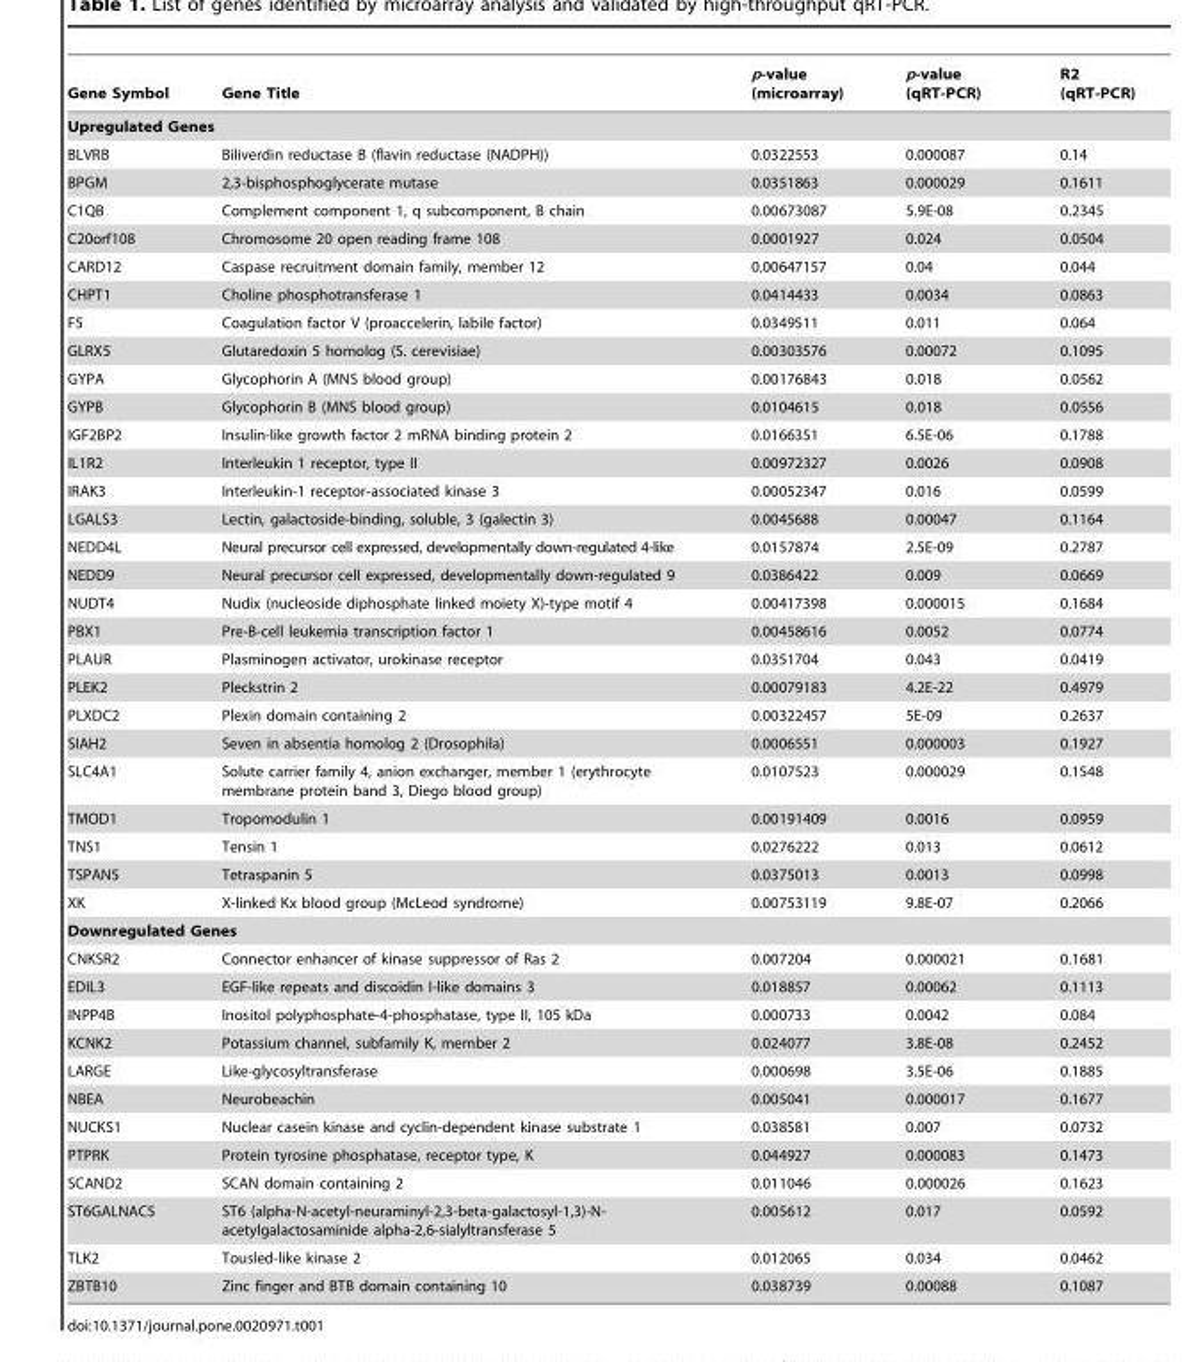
<table><thead><tr><td>Gene Symbol</td><td>Gene Title</td><td>p-value (microarray)</td><td>p-value (qRT-PCR)</td><td>R2 (qRT-PCR)</td></tr></thead><tbody><tr><td colspan="5">Upregulated Genes</td></tr><tr><td>BLVRB</td><td>Biliverdin reductase B (flavin reductase (NADPH))</td><td>0.0322553</td><td>0.000087</td><td>0.14</td></tr><tr><td>BPGM</td><td>2,3-bisphosphoglycerate mutase</td><td>0.0351863</td><td>0.000029</td><td>0.1611</td></tr><tr><td>C1QB</td><td>Complement component 1, q subcomponent, B chain</td><td>0.00673087</td><td>5.9E-08</td><td>0.2345</td></tr><tr><td>C20orf108</td><td>Chromosome 20 open reading frame 108</td><td>0.0001927</td><td>0.024</td><td>0.0504</td></tr><tr><td>CARD12</td><td>Caspase recruitment domain family, member 12</td><td>0.00647157</td><td>0.04</td><td>0.044</td></tr><tr><td>CHPT1</td><td>Choline phosphotransferase 1</td><td>0.0414433</td><td>0.0034</td><td>0.0863</td></tr><tr><td>F5</td><td>Coagulation factor V (proaccelerin, labile factor)</td><td>0.0349511</td><td>0.011</td><td>0.064</td></tr><tr><td>GLRX5</td><td>Glutaredoxin 5 homolog (S. cerevisiae)</td><td>0.00303576</td><td>0.00072</td><td>0.1095</td></tr><tr><td>GYPA</td><td>Glycophorin A (MNS blood group)</td><td>0.00176843</td><td>0.018</td><td>0.0562</td></tr><tr><td>GYPB</td><td>Glycophorin B (MNS blood group)</td><td>0.0104615</td><td>0.018</td><td>0.0556</td></tr><tr><td>IGF2BP2</td><td>Insulin-like growth factor 2 mRNA binding protein 2</td><td>0.0166351</td><td>6.5E-06</td><td>0.1788</td></tr><tr><td>IL1R2</td><td>Interleukin 1 receptor, type II</td><td>0.00972327</td><td>0.0026</td><td>0.0908</td></tr><tr><td>IRAK3</td><td>Interleukin-1 receptor-associated kinase 3</td><td>0.00052347</td><td>0.016</td><td>0.0599</td></tr><tr><td>LGALS3</td><td>Lectin, galactoside-binding, soluble, 3 (galectin 3)</td><td>0.0045688</td><td>0.00047</td><td>0.1164</td></tr><tr><td>NEDD4L</td><td>Neural precursor cell expressed, developmentally down-regulated 4-like</td><td>0.0157874</td><td>2.5E-09</td><td>0.2787</td></tr><tr><td>NEDD9</td><td>Neural precursor cell expressed, developmentally down-regulated 9</td><td>0.0386422</td><td>0.009</td><td>0.0669</td></tr><tr><td>NUDT4</td><td>Nudix (nucleoside diphosphate linked moiety X)-type motif 4</td><td>0.00417398</td><td>0.000015</td><td>0.1684</td></tr><tr><td>PBX1</td><td>Pre-B-cell leukemia transcription factor 1</td><td>0.00458616</td><td>0.0052</td><td>0.0774</td></tr><tr><td>PLAUR</td><td>Plasminogen activator, urokinase receptor</td><td>0.0351704</td><td>0.043</td><td>0.0419</td></tr><tr><td>PLEK2</td><td>Pleckstrin 2</td><td>0.00079183</td><td>4.2E-22</td><td>0.4979</td></tr><tr><td>PLXDC2</td><td>Plexin domain containing 2</td><td>0.00322457</td><td>5E-09</td><td>0.2637</td></tr><tr><td>SIAH2</td><td>Seven in absentia homolog 2 (Drosophila)</td><td>0.0006551</td><td>0.000003</td><td>0.1927</td></tr><tr><td>SLC4A1</td><td>Solute carrier family 4, anion exchanger, member 1 (erythrocyte membrane protein band 3, Diego blood group)</td><td>0.0107523</td><td>0.000029</td><td>0.1548</td></tr><tr><td>TMOD1</td><td>Tropomodulin 1</td><td>0.00191409</td><td>0.0016</td><td>0.0959</td></tr><tr><td>TNS1</td><td>Tensin 1</td><td>0.0276222</td><td>0.013</td><td>0.0612</td></tr><tr><td>TSPAN5</td><td>Tetraspanin 5</td><td>0.0375013</td><td>0.0013</td><td>0.0998</td></tr><tr><td>XK</td><td>X-linked Kx blood group (McLeod syndrome)</td><td>0.00753119</td><td>9.8E-07</td><td>0.2066</td></tr><tr><td colspan="5">Downregulated Genes</td></tr><tr><td>CNKSR2</td><td>Connector enhancer of kinase suppressor of Ras 2</td><td>0.007204</td><td>0.000021</td><td>0.1681</td></tr><tr><td>EDIL3</td><td>EGF-like repeats and discoidin I-like domains 3</td><td>0.018857</td><td>0.00062</td><td>0.1113</td></tr><tr><td>INPP4B</td><td>Inositol polyphosphate-4-phosphatase, type II, 105 kDa</td><td>0.000733</td><td>0.0042</td><td>0.084</td></tr><tr><td>KCNK2</td><td>Potassium channel, subfamily K, member 2</td><td>0.024077</td><td>3.8E-08</td><td>0.2452</td></tr><tr><td>LARGE</td><td>Like-glycosyltransferase</td><td>0.000698</td><td>3.5E-06</td><td>0.1885</td></tr><tr><td>NBEA</td><td>Neurobeachin</td><td>0.005041</td><td>0.000017</td><td>0.1677</td></tr><tr><td>NUCKS1</td><td>Nuclear casein kinase and cyclin-dependent kinase substrate 1</td><td>0.038581</td><td>0.007</td><td>0.0732</td></tr><tr><td>PTPRK</td><td>Protein tyrosine phosphatase, receptor type, K</td><td>0.044927</td><td>0.000083</td><td>0.1473</td></tr><tr><td>SCAND2</td><td>SCAN domain containing 2</td><td>0.011046</td><td>0.000026</td><td>0.1623</td></tr><tr><td>ST6GALNAC5</td><td>ST6 (alpha-N-acetyl-neuraminyl-2,3-beta-galactosyl-1,3)-N- acetylgalactosaminide alpha-2,6-sialyltransferase 5</td><td>0.005612</td><td>0.017</td><td>0.0592</td></tr><tr><td>TLK2</td><td>Tousled-like kinase 2</td><td>0.012065</td><td>0.034</td><td>0.0462</td></tr><tr><td>ZBTB10</td><td>Zinc finger and BTB domain containing 10</td><td>0.038739</td><td>0.00088</td><td>0.1087</td></tr></tbody></table>